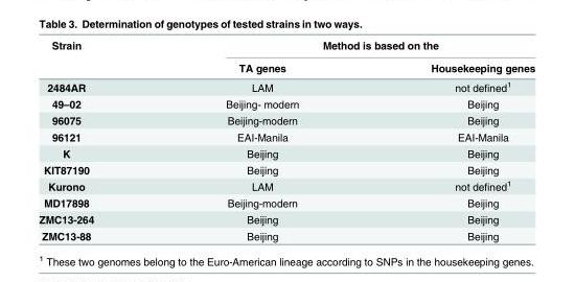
<table><thead><tr><td rowspan="2">Strain</td><td colspan="2">Method is based on the</td></tr><tr><td>TA genes</td><td>Housekeeping genes</td></tr></thead><tbody><tr><td>2484AR</td><td>LAM</td><td>not defined<sup>1</sup></td></tr><tr><td>49–02</td><td>Beijing- modern</td><td>Beijing</td></tr><tr><td>96075</td><td>Beijing-modern</td><td>Beijing</td></tr><tr><td>96121</td><td>EAI-Manila</td><td>EAI-Manila</td></tr><tr><td>K</td><td>Beijing</td><td>Beijing</td></tr><tr><td>KIT87190</td><td>Beijing</td><td>Beijing</td></tr><tr><td>Kurono</td><td>LAM</td><td>not defined<sup>1</sup></td></tr><tr><td>MD17898</td><td>Beijing-modern</td><td>Beijing</td></tr><tr><td>ZMC13-264</td><td>Beijing</td><td>Beijing</td></tr><tr><td>ZMC13-88</td><td>Beijing</td><td>Beijing</td></tr></tbody></table>